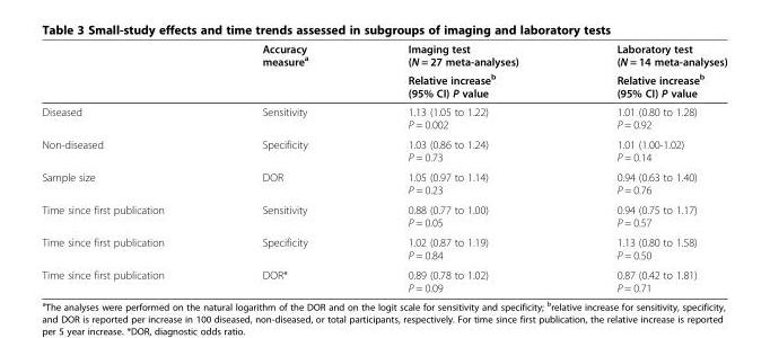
<table><thead><tr><td rowspan="2"></td><td rowspan="2">Accuracy measure<sup>a</sup></td><td rowspan="2">Imaging test (N = 27 meta-analyses) Relative increase<sup>b</sup> (95% CI) P value</td><td rowspan="2">Laboratory test (N = 14 meta-analyses) Relative increase<sup>b</sup> (95% CI) P value</td></tr><tr></tr></thead><tbody><tr><td>Diseased</td><td>Sensitivity</td><td>1.13 (1.05 to 1.22) P = 0.002</td><td>1.01 (0.80 to 1.28) P = 0.92</td></tr><tr><td>Non-diseased</td><td>Specificity</td><td>1.03 (0.86 to 1.24) P = 0.73</td><td>1.01 (1.00-1.02) P = 0.14</td></tr><tr><td>Sample size</td><td>DOR</td><td>1.05 (0.97 to 1.14) P = 0.23</td><td>0.94 (0.63 to 1.40) P = 0.76</td></tr><tr><td>Time since first publication</td><td>Sensitivity</td><td>0.88 (0.77 to 1.00) P = 0.05</td><td>0.94 (0.75 to 1.17) P = 0.57</td></tr><tr><td>Time since first publication</td><td>Specificity</td><td>1.02 (0.87 to 1.19) P = 0.84</td><td>1.13 (0.80 to 1.58) P = 0.50</td></tr><tr><td>Time since first publication</td><td>DOR*</td><td>0.89 (0.78 to 1.02) P = 0.09</td><td>0.87 (0.42 to 1.81) P = 0.71</td></tr></tbody></table>